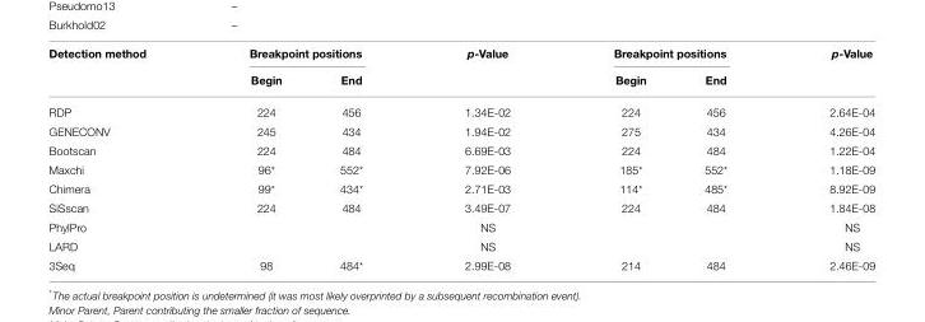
<table><thead><tr><td rowspan="2">Detection method</td><td colspan="2">Breakpoint positions</td><td rowspan="2">p-Value</td><td colspan="2">Breakpoint positions</td><td rowspan="2">p-Value</td></tr><tr><td>Begin</td><td>End</td><td>Begin</td><td>End</td></tr></thead><tbody><tr><td>RDP</td><td>224</td><td>456</td><td>1.34E-02</td><td>224</td><td>456</td><td>2.64E-04</td></tr><tr><td>GENECONV</td><td>245</td><td>434</td><td>1.94E-02</td><td>275</td><td>434</td><td>4.26E-04</td></tr><tr><td>Bootscan</td><td>224</td><td>484</td><td>6.69E-03</td><td>224</td><td>484</td><td>1.22E-04</td></tr><tr><td>Maxchi</td><td>96*</td><td>552*</td><td>7.92E-06</td><td>185*</td><td>552*</td><td>1.18E-09</td></tr><tr><td>Chimera</td><td>99*</td><td>434*</td><td>2.71E-03</td><td>114*</td><td>485*</td><td>8.92E-09</td></tr><tr><td>SiSscan</td><td>224</td><td>484</td><td>3.49E-07</td><td>224</td><td>484</td><td>1.84E-08</td></tr><tr><td>PhylPro</td><td></td><td></td><td>NS</td><td></td><td></td><td>NS</td></tr><tr><td>LARD</td><td></td><td></td><td>NS</td><td></td><td></td><td>NS</td></tr><tr><td>3Seq</td><td>98</td><td>484*</td><td>2.99E-08</td><td>214</td><td>484</td><td>2.46E-09</td></tr></tbody></table>